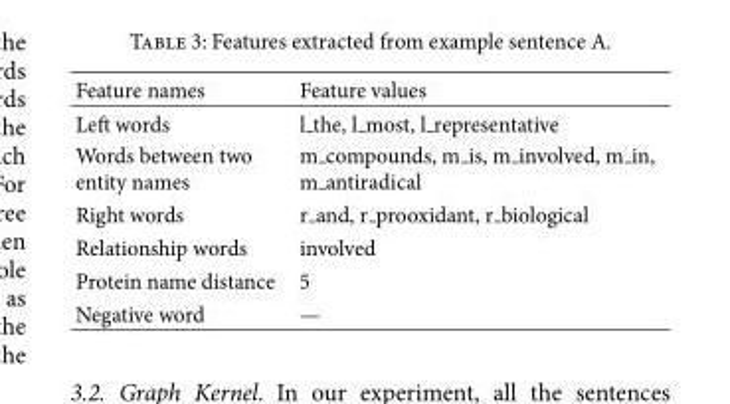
<table><thead><tr><td>Feature names</td><td>Feature values</td></tr></thead><tbody><tr><td>Left words</td><td>l the, l most, l representative</td></tr><tr><td>Words between two entity names</td><td>m compounds, m is, m involved, m in, m antiradical</td></tr><tr><td>Right words</td><td>r and, r prooxidant, r biological</td></tr><tr><td>Relationship words</td><td>involved</td></tr><tr><td>Protein name distance</td><td>5</td></tr><tr><td>Negative word</td><td>—</td></tr></tbody></table>